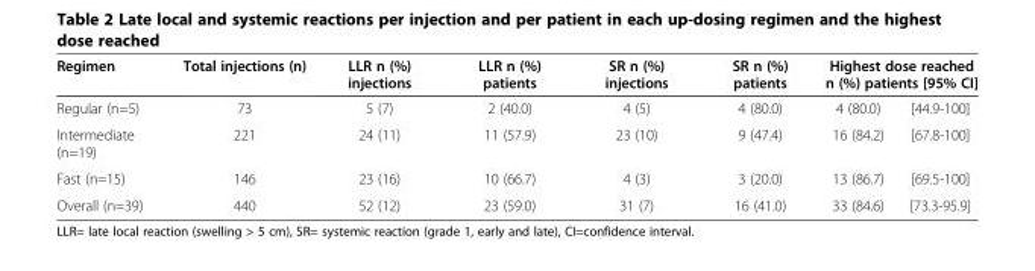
<table><thead><tr><td rowspan="2">Regimen Regular (n=5)</td><td rowspan="2">Total injections (n) 73</td><td rowspan="2">LLR n (%) injections 5 (7)</td><td rowspan="2">LLR n (%) patients 2 (40.0)</td><td rowspan="2">SR n (%) injections 4 (5)</td><td rowspan="2">SR n (%) patients 4 (80.0)</td><td colspan="2">Highest dose reached n (%) patients [95% CI]</td></tr><tr><td>4 (80.0)</td><td>[44.9-100]</td></tr></thead><tbody><tr><td>Intermediate (n=19)</td><td>221</td><td>24 (11)</td><td>11 (57.9)</td><td>23 (10)</td><td>9 (47.4)</td><td>16 (84.2)</td><td>[67.8-100]</td></tr><tr><td>Fast (n=15)</td><td>146</td><td>23 (16)</td><td>10 (66.7)</td><td>4 (3)</td><td>3 (20.0)</td><td>13 (86.7)</td><td>[69.5-100]</td></tr><tr><td>Overall (n=39)</td><td>440</td><td>52 (12)</td><td>23 (59.0)</td><td>31 (7)</td><td>16 (41.0)</td><td>33 (84.6)</td><td>[73.3-95.9]</td></tr></tbody></table>